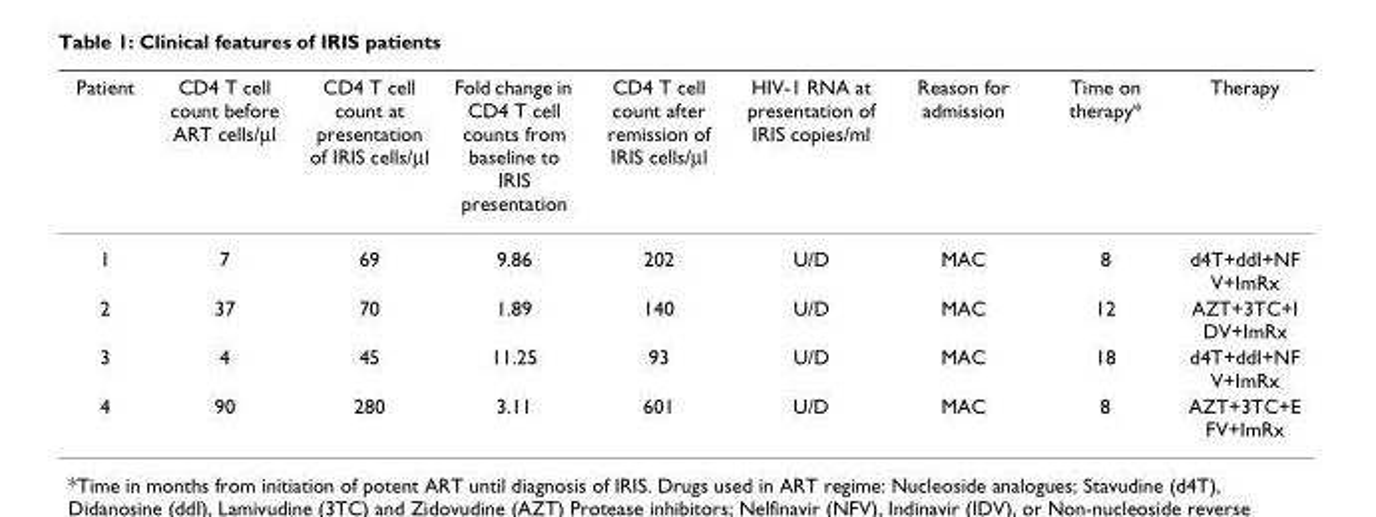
<table><thead><tr><td>Patient</td><td>CD4 T cell count before ART cells/µl</td><td>CD4 T cell count at presentation of IRIS cells/µl</td><td>Fold change in CD4 T cell counts from baseline to IRIS presentation</td><td>CD4 T cell count after remission of IRIS cells/µl</td><td>HIV-1 RNA at presentation of IRIS copies/ml</td><td>Reason for admission</td><td>Time on therapy*</td><td>Therapy</td></tr></thead><tbody><tr><td>1</td><td>7</td><td>69</td><td>9.86</td><td>202</td><td>U/D</td><td>MAC</td><td>8</td><td>d4T+ddI+NF V+ImRx</td></tr><tr><td>2</td><td>37</td><td>70</td><td>1.89</td><td>140</td><td>U/D</td><td>MAC</td><td>12</td><td>AZT+3TC+I DV+ImRx</td></tr><tr><td>3</td><td>4</td><td>45</td><td>11.25</td><td>93</td><td>U/D</td><td>MAC</td><td>18</td><td>d4T+ddI+NF V+ImRx</td></tr><tr><td>4</td><td>90</td><td>280</td><td>3.11</td><td>601</td><td>U/D</td><td>MAC</td><td>8</td><td>AZT+3TC+E FV+ImRx</td></tr></tbody></table>